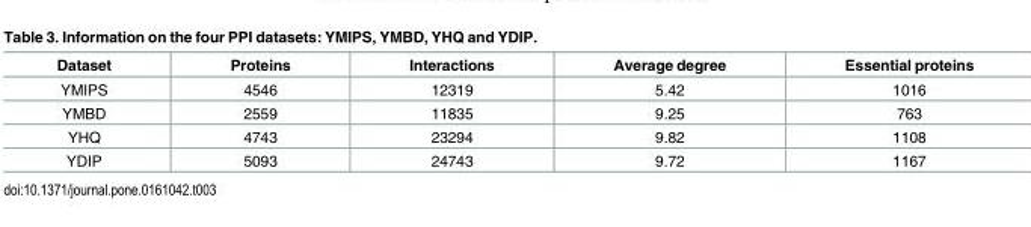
<table><thead><tr><td>Dataset</td><td>Proteins</td><td>Interactions</td><td>Average degree</td><td>Essential proteins</td></tr></thead><tbody><tr><td>YMIPS</td><td>4546</td><td>12319</td><td>5.42</td><td>1016</td></tr><tr><td>YMBD</td><td>2559</td><td>11835</td><td>9.25</td><td>763</td></tr><tr><td>YHQ</td><td>4743</td><td>23294</td><td>9.82</td><td>1108</td></tr><tr><td>YDIP</td><td>5093</td><td>24743</td><td>9.72</td><td>1167</td></tr></tbody></table>